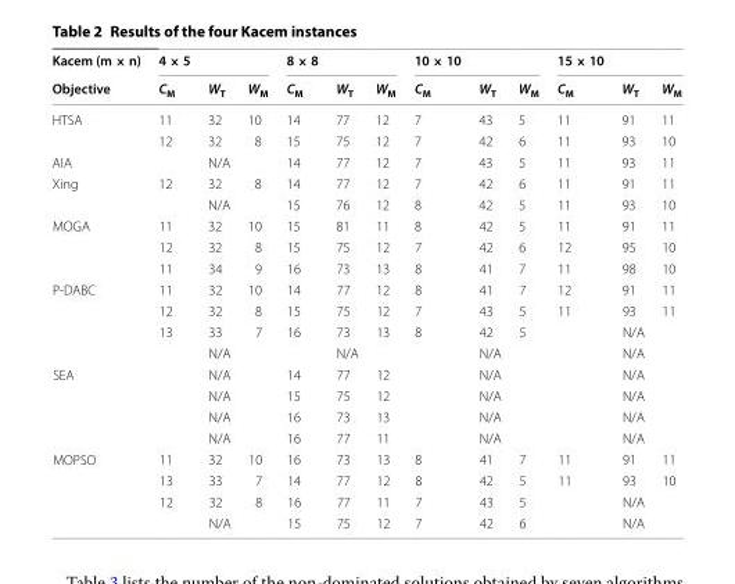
<table><thead><tr><td rowspan="2">Kacem (m × n) Objective</td><td colspan="3">4 × 5</td><td colspan="3">8 × 8</td><td colspan="3">10 × 10</td><td colspan="3">15 × 10</td></tr><tr><td>C<sub>M</sub></td><td>W<sub>T</sub></td><td>W<sub>M</sub></td><td>C<sub>M</sub></td><td>W<sub>T</sub></td><td>W<sub>M</sub></td><td>C<sub>M</sub></td><td>W<sub>T</sub></td><td>W<sub>M</sub></td><td>C<sub>M</sub></td><td>W<sub>T</sub></td><td>W<sub>M</sub></td></tr></thead><tbody><tr><td rowspan="2">HTSA</td><td>11</td><td>32</td><td>10</td><td>14</td><td>77</td><td>12</td><td>7</td><td>43</td><td>5</td><td>11</td><td>91</td><td>11</td></tr><tr><td>12</td><td>32</td><td>8</td><td>15</td><td>75</td><td>12</td><td>7</td><td>42</td><td>6</td><td>11</td><td>93</td><td>10</td></tr><tr><td>AIA</td><td></td><td>N/A</td><td></td><td>14</td><td>77</td><td>12</td><td>7</td><td>43</td><td>5</td><td>11</td><td>93</td><td>11</td></tr><tr><td rowspan="2">Xing</td><td>12</td><td>32</td><td>8</td><td>14</td><td>77</td><td>12</td><td>7</td><td>42</td><td>6</td><td>11</td><td>91</td><td>11</td></tr><tr><td></td><td>N/A</td><td></td><td>15</td><td>76</td><td>12</td><td>8</td><td>42</td><td>5</td><td>11</td><td>93</td><td>10</td></tr><tr><td rowspan="3">MOGA</td><td>11</td><td>32</td><td>10</td><td>15</td><td>81</td><td>11</td><td>8</td><td>42</td><td>5</td><td>11</td><td>91</td><td>11</td></tr><tr><td>12</td><td>32</td><td>8</td><td>15</td><td>75</td><td>12</td><td>7</td><td>42</td><td>6</td><td>12</td><td>95</td><td>10</td></tr><tr><td>11</td><td>34</td><td>9</td><td>16</td><td>73</td><td>13</td><td>8</td><td>41</td><td>7</td><td>11</td><td>98</td><td>10</td></tr><tr><td rowspan="4">P-DABC</td><td>11</td><td>32</td><td>10</td><td>14</td><td>77</td><td>12</td><td>8</td><td>41</td><td>7</td><td>12</td><td>91</td><td>11</td></tr><tr><td>12</td><td>32</td><td>8</td><td>15</td><td>75</td><td>12</td><td>7</td><td>43</td><td>5</td><td>11</td><td>93</td><td>11</td></tr><tr><td>13</td><td>33</td><td>7</td><td>16</td><td>73</td><td>13</td><td>8</td><td>42</td><td>5</td><td></td><td>N/A</td><td></td></tr><tr><td></td><td>N/A</td><td></td><td></td><td>N/A</td><td></td><td></td><td>N/A</td><td></td><td></td><td>N/A</td><td></td></tr><tr><td rowspan="4">SEA</td><td></td><td>N/A</td><td></td><td>14</td><td>77</td><td>12</td><td></td><td>N/A</td><td></td><td></td><td>N/A</td><td></td></tr><tr><td></td><td>N/A</td><td></td><td>15</td><td>75</td><td>12</td><td></td><td>N/A</td><td></td><td></td><td>N/A</td><td></td></tr><tr><td></td><td>N/A</td><td></td><td>16</td><td>73</td><td>13</td><td></td><td>N/A</td><td></td><td></td><td>N/A</td><td></td></tr><tr><td></td><td>N/A</td><td></td><td>16</td><td>77</td><td>11</td><td></td><td>N/A</td><td></td><td></td><td>N/A</td><td></td></tr><tr><td rowspan="4">MOPSO</td><td>11</td><td>32</td><td>10</td><td>16</td><td>73</td><td>13</td><td>8</td><td>41</td><td>7</td><td>11</td><td>91</td><td>11</td></tr><tr><td>13</td><td>33</td><td>7</td><td>14</td><td>77</td><td>12</td><td>8</td><td>42</td><td>5</td><td>11</td><td>93</td><td>10</td></tr><tr><td>12</td><td>32</td><td>8</td><td>16</td><td>77</td><td>11</td><td>7</td><td>43</td><td>5</td><td></td><td>N/A</td><td></td></tr><tr><td></td><td>N/A</td><td></td><td>15</td><td>75</td><td>12</td><td>7</td><td>42</td><td>6</td><td></td><td>N/A</td><td></td></tr></tbody></table>